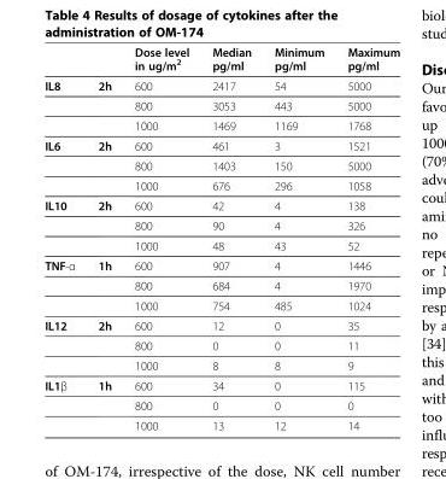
<table><thead><tr><td></td><td></td><td>Dose level in ug/m<sup>2</sup></td><td>Median pg/ml</td><td>Minimum pg/ml</td><td>Maximum pg/ml</td></tr></thead><tbody><tr><td rowspan="3">IL8</td><td>2h</td><td>600</td><td>2417</td><td>54</td><td>5000</td></tr><tr><td></td><td>800</td><td>3053</td><td>443</td><td>5000</td></tr><tr><td></td><td>1000</td><td>1469</td><td>1169</td><td>1768</td></tr><tr><td rowspan="3">IL6</td><td>2h</td><td>600</td><td>461</td><td>3</td><td>1521</td></tr><tr><td></td><td>800</td><td>1403</td><td>150</td><td>5000</td></tr><tr><td></td><td>1000</td><td>676</td><td>296</td><td>1058</td></tr><tr><td rowspan="3">IL10</td><td>2h</td><td>600</td><td>42</td><td>4</td><td>138</td></tr><tr><td></td><td>800</td><td>90</td><td>4</td><td>326</td></tr><tr><td></td><td>1000</td><td>48</td><td>43</td><td>52</td></tr><tr><td rowspan="3">TNF-α</td><td>1h</td><td>600</td><td>907</td><td>4</td><td>1446</td></tr><tr><td></td><td>800</td><td>684</td><td>4</td><td>1970</td></tr><tr><td></td><td>1000</td><td>754</td><td>485</td><td>1024</td></tr><tr><td rowspan="3">IL12</td><td>2h</td><td>600</td><td>12</td><td>0</td><td>35</td></tr><tr><td></td><td>800</td><td>0</td><td>0</td><td>11</td></tr><tr><td></td><td>1000</td><td>8</td><td>8</td><td>9</td></tr><tr><td rowspan="3">IL1β</td><td>1h</td><td>600</td><td>34</td><td>0</td><td>115</td></tr><tr><td></td><td>800</td><td>0</td><td>0</td><td>0</td></tr><tr><td></td><td>1000</td><td>13</td><td>12</td><td>14</td></tr></tbody></table>